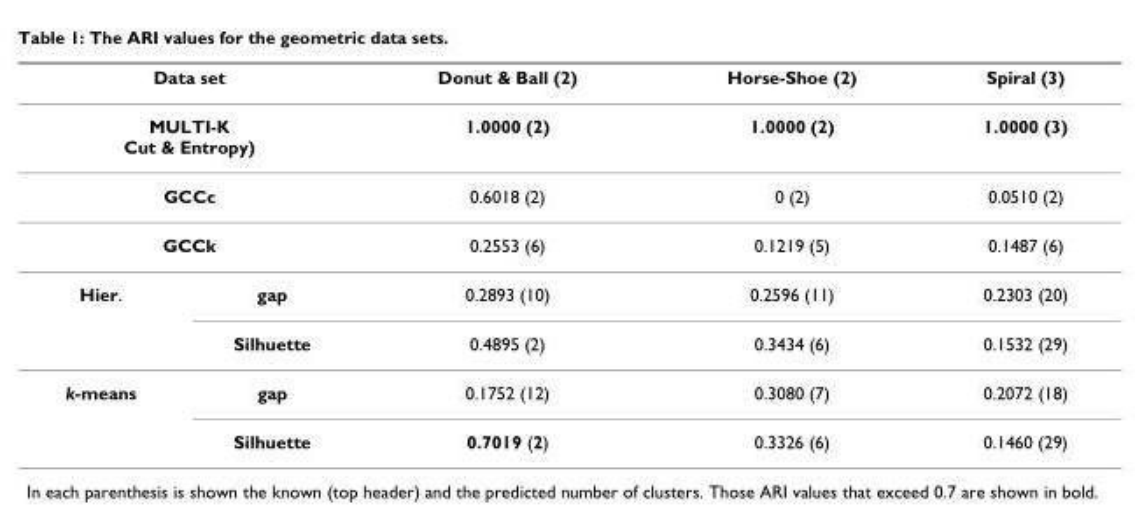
<table><thead><tr><td colspan="2">Data set</td><td>Donut &amp; Ball (2)</td><td>Horse-Shoe (2)</td><td>Spiral (3)</td></tr></thead><tbody><tr><td colspan="2">MULTI-K Cut &amp; Entropy)</td><td>1.0000 (2)</td><td>1.0000 (2)</td><td>1.0000 (3)</td></tr><tr><td colspan="2">GCCc</td><td>0.6018 (2)</td><td>0 (2)</td><td>0.0510 (2)</td></tr><tr><td colspan="2">GCCk</td><td>0.2553 (6)</td><td>0.1219 (5)</td><td>0.1487 (6)</td></tr><tr><td rowspan="2">Hier.</td><td>gap</td><td>0.2893 (10)</td><td>0.2596 (11)</td><td>0.2303 (20)</td></tr><tr><td>Silhuette</td><td>0.4895 (2)</td><td>0.3434 (6)</td><td>0.1532 (29)</td></tr><tr><td rowspan="2">k-means</td><td>gap</td><td>0.1752 (12)</td><td>0.3080 (7)</td><td>0.2072 (18)</td></tr><tr><td>Silhuette</td><td>0.7019 (2)</td><td>0.3326 (6)</td><td>0.1460 (29)</td></tr></tbody></table>